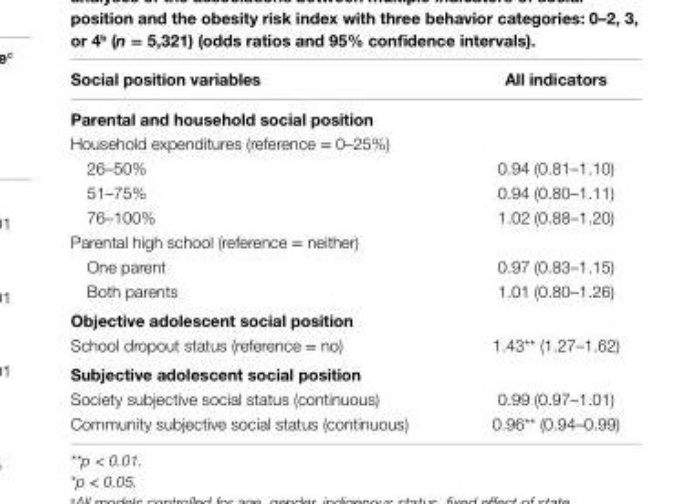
<table><thead><tr><td>social position variables</td><td>all indicators</td></tr></thead><tbody><tr><td colspan="2">Parental and household social position</td></tr><tr><td colspan="2">Household expenditures (reference = 0–25%)</td></tr><tr><td>26–50%</td><td>0.94 (0.81–1.10)</td></tr><tr><td>51–75%</td><td>0.94 (0.80–1.11)</td></tr><tr><td>76–100%</td><td>1.02 (0.88–1.20)</td></tr><tr><td colspan="2">Parental high school (reference = neither)</td></tr><tr><td>One parent</td><td>0.97 (0.83–1.15)</td></tr><tr><td>Both parents</td><td>1.01 (0.80–1.26)</td></tr><tr><td colspan="2">Objective adolescent social position</td></tr><tr><td>School dropout status (reference = no)</td><td>1.43** (1.27–1.62)</td></tr><tr><td colspan="2">subjective adolescent social position</td></tr><tr><td>Society subjective social status (continuous)</td><td>0.99 (0.97–1.01)</td></tr><tr><td>Community subjective social status (continuous)</td><td>0.96** (0.94–0.99)</td></tr></tbody></table>